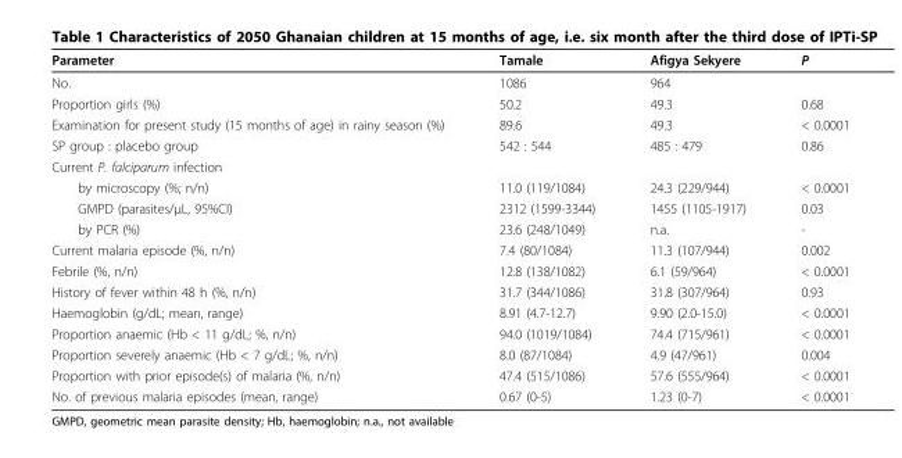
<table><thead><tr><td>Parameter</td><td>Tamale</td><td>Afigya Sekyere</td><td>P</td></tr></thead><tbody><tr><td>No.</td><td>1086</td><td>964</td><td></td></tr><tr><td>Proportion girls (%)</td><td>50.2</td><td>49.3</td><td>0.68</td></tr><tr><td>Examination for present study (15 months of age) in rainy season (%)</td><td>89.6</td><td>49.3</td><td>&lt; 0.0001</td></tr><tr><td>SP group : placebo group</td><td>542 : 544</td><td>485 : 479</td><td>0.86</td></tr><tr><td colspan="4">Current P. falciparum infection</td></tr><tr><td>by microscopy (%; n/n)</td><td>11.0 (119/1084)</td><td>24.3 (229/944)</td><td>&lt; 0.0001</td></tr><tr><td>GMPD (parasites/μL, 95%CI)</td><td>2312 (1599-3344)</td><td>1455 (1105-1917)</td><td>0.03</td></tr><tr><td>by PCR (%)</td><td>23.6 (248/1049)</td><td>n.a.</td><td>-</td></tr><tr><td>Current malaria episode (%, n/n)</td><td>7.4 (80/1084)</td><td>11.3 (107/944)</td><td>0.002</td></tr><tr><td>Febrile (%, n/n)</td><td>12.8 (138/1082)</td><td>6.1 (59/964)</td><td>&lt; 0.0001</td></tr><tr><td>History of fever within 48 h (%, n/n)</td><td>31.7 (344/1086)</td><td>31.8 (307/964)</td><td>0.93</td></tr><tr><td>Haemoglobin (g/dL; mean, range)</td><td>8.91 (4.7-12.7)</td><td>9.90 (2.0-15.0)</td><td>&lt; 0.0001</td></tr><tr><td>Proportion anaemic (Hb &lt; 11 g/dL; %, n/n)</td><td>94.0 (1019/1084)</td><td>74.4 (715/961)</td><td>&lt; 0.0001</td></tr><tr><td>Proportion severely anaemic (Hb &lt; 7 g/dL; %, n/n)</td><td>8.0 (87/1084)</td><td>4.9 (47/961)</td><td>0.004</td></tr><tr><td>Proportion with prior episode(s) of malaria (%, n/n)</td><td>47.4 (515/1086)</td><td>57.6 (555/964)</td><td>&lt; 0.0001</td></tr><tr><td>No. of previous malaria episodes (mean, range)</td><td>0.67 (0-5)</td><td>1.23 (0-7)</td><td>&lt; 0.0001</td></tr></tbody></table>